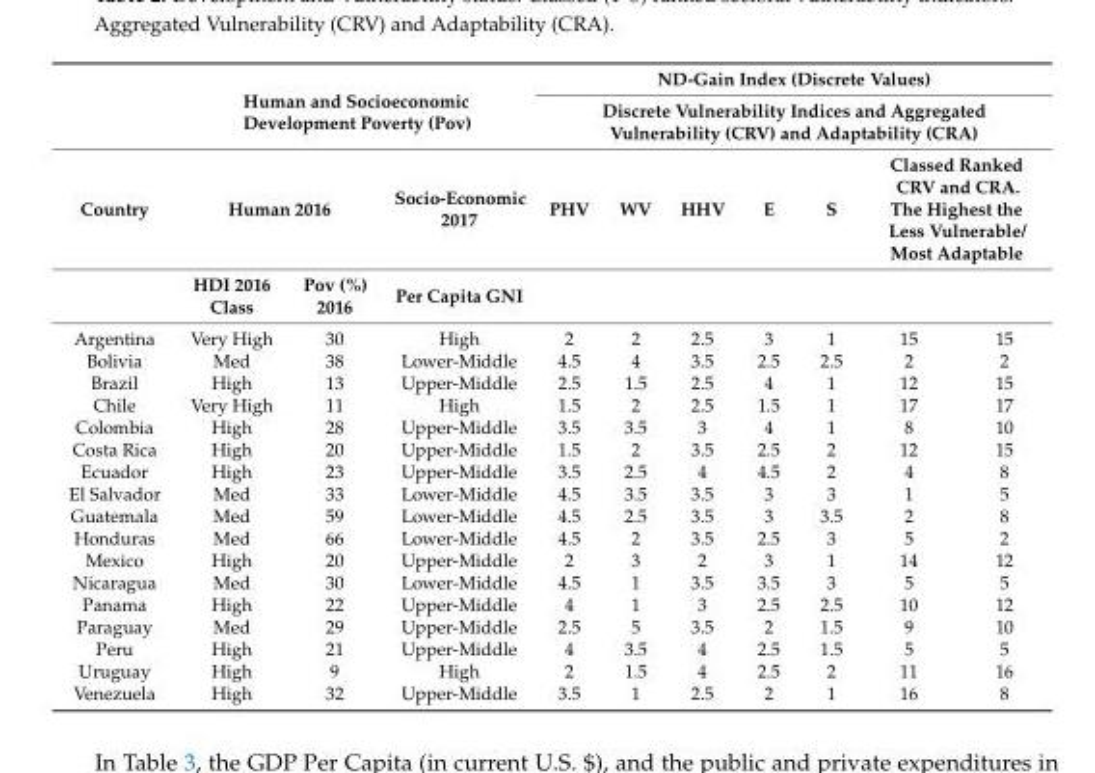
<table><thead><tr><td rowspan="4">Country</td><td rowspan="2" colspan="3">Human and Socioeconomic Development Poverty (Pov)</td><td rowspan="2" colspan="7">ND-Gain Index (Discrete Values) Discrete Vulnerability Indices and Aggregated Vulnerability (CRV) and Adaptability (CRA)</td></tr><tr></tr><tr><td colspan="2">Human 2016</td><td rowspan="2">Socio-Economic 2017 Per Capita GNI</td><td rowspan="2">PHV</td><td rowspan="2">WV</td><td rowspan="2">HHV</td><td rowspan="2">E</td><td rowspan="2">S</td><td colspan="2">Classed Ranked CRV and CRA. The Highest the Less Vulnerable/ Most Adaptable</td></tr><tr><td>HDI 2016 Class</td><td>Pov (%) 2016</td><td></td><td></td></tr></thead><tbody><tr><td>Argentina</td><td>Very High</td><td>30</td><td>High</td><td>2</td><td>2</td><td>2.5</td><td>3</td><td>1</td><td>15</td><td>15</td></tr><tr><td>Bolivia</td><td>Med</td><td>38</td><td>Lower-Middle</td><td>4.5</td><td>4</td><td>3.5</td><td>2.5</td><td>2.5</td><td>2</td><td>2</td></tr><tr><td>Brazil</td><td>High</td><td>13</td><td>Upper-Middle</td><td>2.5</td><td>1.5</td><td>2.5</td><td>4</td><td>1</td><td>12</td><td>15</td></tr><tr><td>Chile</td><td>Very High</td><td>11</td><td>High</td><td>1.5</td><td>2</td><td>2.5</td><td>1.5</td><td>1</td><td>17</td><td>17</td></tr><tr><td>Colombia</td><td>High</td><td>28</td><td>Upper-Middle</td><td>3.5</td><td>3.5</td><td>3</td><td>4</td><td>1</td><td>8</td><td>10</td></tr><tr><td>Costa Rica</td><td>High</td><td>20</td><td>Upper-Middle</td><td>1.5</td><td>2</td><td>3.5</td><td>2.5</td><td>2</td><td>12</td><td>15</td></tr><tr><td>Ecuador</td><td>High</td><td>23</td><td>Upper-Middle</td><td>3.5</td><td>2.5</td><td>4</td><td>4.5</td><td>2</td><td>4</td><td>8</td></tr><tr><td>El Salvador</td><td>Med</td><td>33</td><td>Lower-Middle</td><td>4.5</td><td>3.5</td><td>3.5</td><td>3</td><td>3</td><td>1</td><td>5</td></tr><tr><td>Guatemala</td><td>Med</td><td>59</td><td>Lower-Middle</td><td>4.5</td><td>2.5</td><td>3.5</td><td>3</td><td>3.5</td><td>2</td><td>8</td></tr><tr><td>Honduras</td><td>Med</td><td>66</td><td>Lower-Middle</td><td>4.5</td><td>2</td><td>3.5</td><td>2.5</td><td>3</td><td>5</td><td>2</td></tr><tr><td>Mexico</td><td>High</td><td>20</td><td>Upper-Middle</td><td>2</td><td>3</td><td>2</td><td>3</td><td>1</td><td>14</td><td>12</td></tr><tr><td>Nicaragua</td><td>Med</td><td>30</td><td>Lower-Middle</td><td>4.5</td><td>1</td><td>3.5</td><td>3.5</td><td>3</td><td>5</td><td>5</td></tr><tr><td>Panama</td><td>High</td><td>22</td><td>Upper-Middle</td><td>4</td><td>1</td><td>3</td><td>2.5</td><td>2.5</td><td>10</td><td>12</td></tr><tr><td>Paraguay</td><td>Med</td><td>29</td><td>Upper-Middle</td><td>2.5</td><td>5</td><td>3.5</td><td>2</td><td>1.5</td><td>9</td><td>10</td></tr><tr><td>Peru</td><td>High</td><td>21</td><td>Upper-Middle</td><td>4</td><td>3.5</td><td>4</td><td>2.5</td><td>1.5</td><td>5</td><td>5</td></tr><tr><td>Uruguay</td><td>High</td><td>9</td><td>High</td><td>2</td><td>1.5</td><td>4</td><td>2.5</td><td>2</td><td>11</td><td>16</td></tr><tr><td>Venezuela</td><td>High</td><td>32</td><td>Upper-Middle</td><td>3.5</td><td>1</td><td>2.5</td><td>2</td><td>1</td><td>16</td><td>8</td></tr></tbody></table>